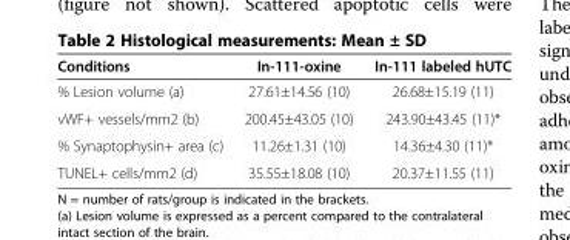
<table><thead><tr><td>Conditions</td><td>In-111-oxine</td><td>In-111 labeled hUTC</td></tr></thead><tbody><tr><td>% Lesion volume (a)</td><td>27.61±14.56 (10)</td><td>26.68±15.19 (11)</td></tr><tr><td>vWF+ vessels/mm2 (b)</td><td>200.45±43.05 (10)</td><td>243.90±43.45 (11)*</td></tr><tr><td>% Synaptophysin+ area (c)</td><td>11.26±1.31 (10)</td><td>14.36±4.30 (11)*</td></tr><tr><td>TUNEL+ cells/mm2 (d)</td><td>35.55±18.08 (10)</td><td>20.37±11.55 (11)</td></tr></tbody></table>